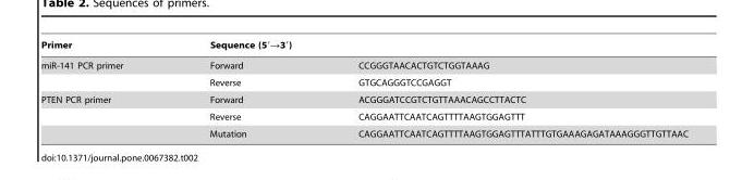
<table><thead><tr><td rowspan="2">Primer miR-141 PCR primer</td><td colspan="2">Sequence (5′→3′)</td></tr><tr><td>Forward</td><td>CCGGGTAACACTGTCTGGTAAAG</td></tr></thead><tbody><tr><td></td><td>Reverse</td><td>GTGCAGGGTCCGAGGT</td></tr><tr><td rowspan="3">PTEN PCR primer</td><td>Forward</td><td>ACGGGATCCGTCTGTTAAACAGCCTTACTC</td></tr><tr><td>Reverse</td><td>CAGGAATTCAATCAGTTTTAAGTGGAGTTT</td></tr><tr><td>Mutation</td><td>CAGGAATTCAATCAGTTTTAAGTGGAGTTTATTTGTGAAAGAGATAAAGGGTTGTTAAC</td></tr></tbody></table>